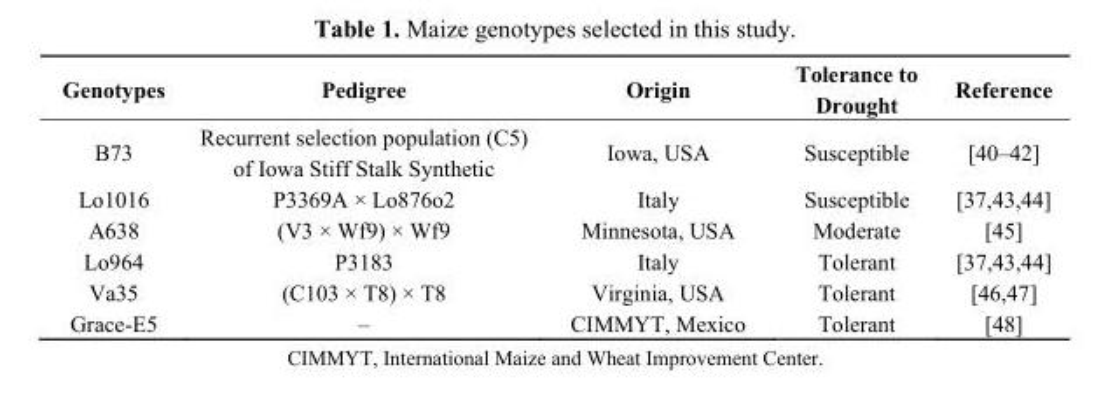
<table><thead><tr><td>Genotypes</td><td>Pedigree</td><td>Origin</td><td>Tolerance to Drought</td><td>Reference</td></tr></thead><tbody><tr><td>B73</td><td>Recurrent selection population (C5) of Iowa Stiff Stalk Synthetic</td><td>Iowa, USA</td><td>Susceptible</td><td>[40–42]</td></tr><tr><td>Lo1016</td><td>P3369A × Lo876o2</td><td>Italy</td><td>Susceptible</td><td>[37,43,44]</td></tr><tr><td>A638</td><td>(V3 × Wf9) × Wf9</td><td>Minnesota, USA</td><td>Moderate</td><td>[45]</td></tr><tr><td>Lo964</td><td>P3183</td><td>Italy</td><td>Tolerant</td><td>[37,43,44]</td></tr><tr><td>Va35</td><td>(C103 × T8) × T8</td><td>Virginia, USA</td><td>Tolerant</td><td>[46,47]</td></tr><tr><td>Grace-E5</td><td>–</td><td>CIMMYT, Mexico</td><td>Tolerant</td><td>[48]</td></tr></tbody></table>